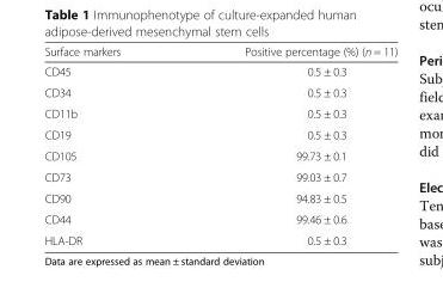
<table><thead><tr><td>Surface markers</td><td>Positive percentage (%) (n = 11)</td></tr></thead><tbody><tr><td>CD45</td><td>0.5 ± 0.3</td></tr><tr><td>CD34</td><td>0.5 ± 0.3</td></tr><tr><td>CD11b</td><td>0.5 ± 0.3</td></tr><tr><td>CD19</td><td>0.5 ± 0.3</td></tr><tr><td>CD105</td><td>99.73 ± 0.1</td></tr><tr><td>CD73</td><td>99.03 ± 0.7</td></tr><tr><td>CD90</td><td>94.83 ± 0.5</td></tr><tr><td>CD44</td><td>99.46 ± 0.6</td></tr><tr><td>HLA-DR</td><td>0.5 ± 0.3</td></tr></tbody></table>